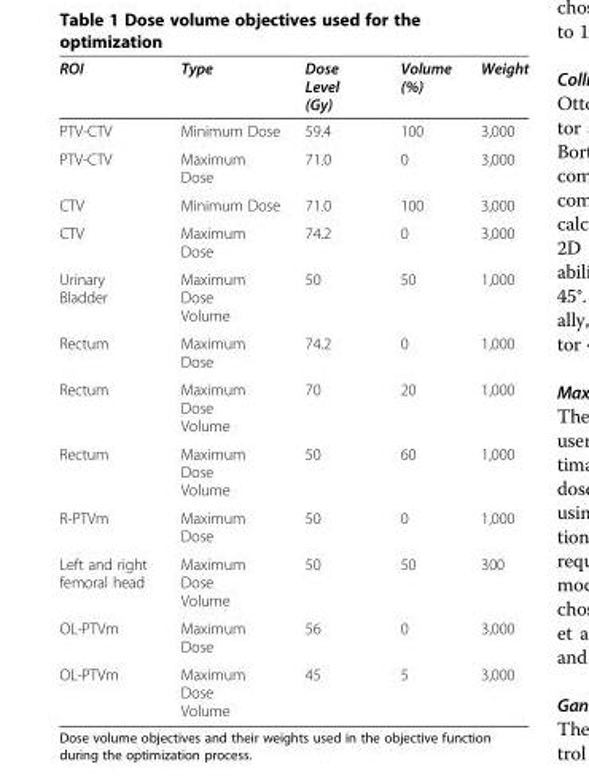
<table><thead><tr><td>ROI</td><td>Type</td><td>Dose Level (Gy)</td><td>Volume (%)</td><td>Weight</td></tr></thead><tbody><tr><td>PTV-CTV</td><td>Minimum Dose</td><td>59.4</td><td>100</td><td>3,000</td></tr><tr><td>PTV-CTV</td><td>Maximum Dose</td><td>71.0</td><td>0</td><td>3,000</td></tr><tr><td>CTV</td><td>Minimum Dose</td><td>71.0</td><td>100</td><td>3,000</td></tr><tr><td>CTV</td><td>Maximum Dose</td><td>74.2</td><td>0</td><td>3,000</td></tr><tr><td>Urinary Bladder</td><td>Maximum Dose Volume</td><td>50</td><td>50</td><td>1,000</td></tr><tr><td>Rectum</td><td>Maximum Dose</td><td>74.2</td><td>0</td><td>1,000</td></tr><tr><td>Rectum</td><td>Maximum Dose Volume</td><td>70</td><td>20</td><td>1,000</td></tr><tr><td>Rectum</td><td>Maximum Dose Volume</td><td>50</td><td>60</td><td>1,000</td></tr><tr><td>R-PTVm</td><td>Maximum Dose</td><td>50</td><td>0</td><td>1,000</td></tr><tr><td>Left and right femoral head</td><td>Maximum Dose Volume</td><td>50</td><td>50</td><td>300</td></tr><tr><td>OL-PTVm</td><td>Maximum Dose</td><td>56</td><td>0</td><td>3,000</td></tr><tr><td>OL-PTVm</td><td>Maximum Dose Volume</td><td>45</td><td>5</td><td>3,000</td></tr></tbody></table>